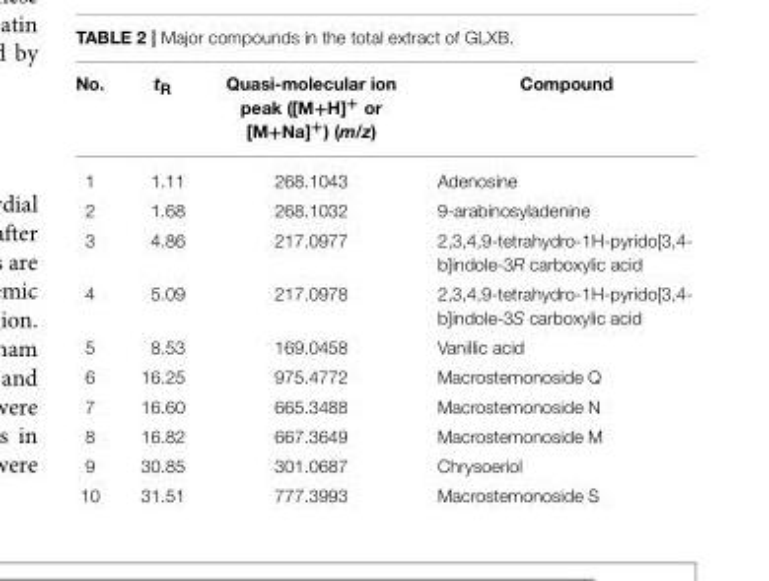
<table><thead><tr><td>No.</td><td>t<sub>R</sub></td><td>Quasi-molecular ion peak ([M+H]<sup>+</sup> or [M+Na]<sup>+</sup>) (m/z)</td><td>Compound</td></tr></thead><tbody><tr><td>1</td><td>1.11</td><td>268.1043</td><td>Adenosine</td></tr><tr><td>2</td><td>1.68</td><td>268.1032</td><td>9-arabinosyladenine</td></tr><tr><td>3</td><td>4.86</td><td>217.0977</td><td>2,3,4,9-tetrahydro-1H-pyrido[3,4- b]indole-3R carboxylic acid</td></tr><tr><td>4</td><td>5.09</td><td>217.0978</td><td>2,3,4,9-tetrahydro-1H-pyrido[3,4- b]indole-3S carboxylic acid</td></tr><tr><td>5</td><td>8.53</td><td>169.0458</td><td>Vanillic acid</td></tr><tr><td>6</td><td>16.25</td><td>975.4772</td><td>Macrostemonoside Q</td></tr><tr><td>7</td><td>16.60</td><td>665.3488</td><td>Macrostemonoside N</td></tr><tr><td>8</td><td>16.82</td><td>667.3649</td><td>Macrostemonoside M</td></tr><tr><td>9</td><td>30.85</td><td>301.0687</td><td>Chrysoeriol</td></tr><tr><td>10</td><td>31.51</td><td>777.3993</td><td>Macrostemonoside S</td></tr></tbody></table>